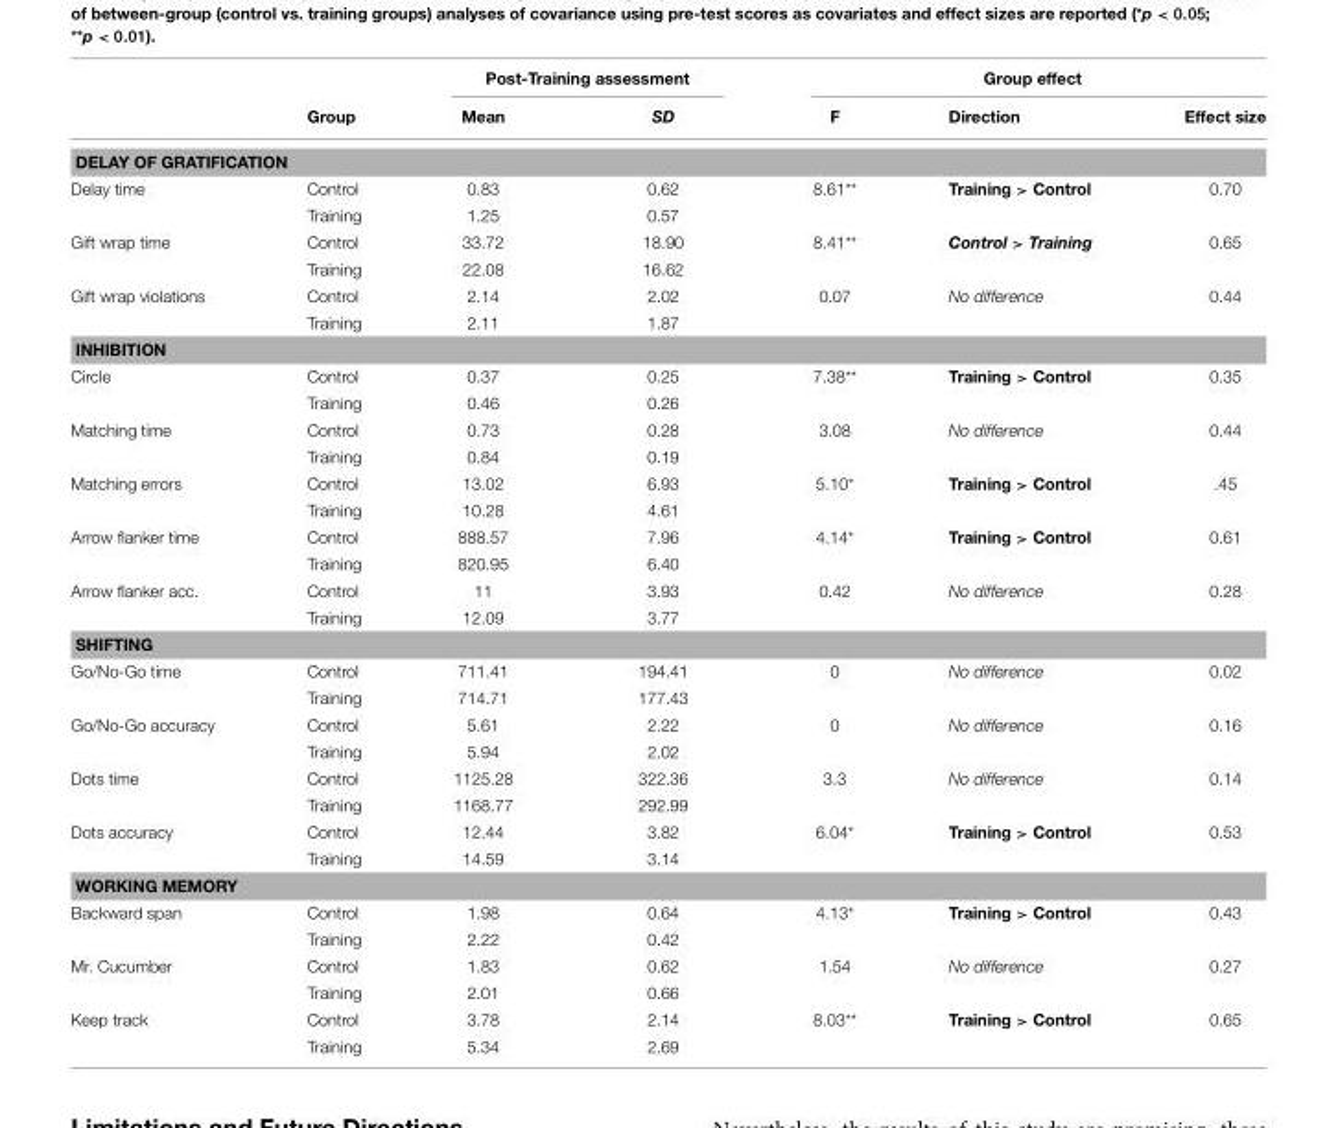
<table><thead><tr><td rowspan="2"></td><td rowspan="2">Group</td><td colspan="2">Post-Training assessment</td><td colspan="3">Group effect</td></tr><tr><td>Mean</td><td>SD</td><td>F</td><td>Direction</td><td>Effect size</td></tr></thead><tbody><tr><td colspan="7">DELAY OF GRATIFICATION</td></tr><tr><td rowspan="2">Delay time</td><td>Control</td><td>0.83</td><td>0.62</td><td>8.61**</td><td>Training &gt; Control</td><td>0.70</td></tr><tr><td>Training</td><td>1.25</td><td>0.57</td><td></td><td></td><td></td></tr><tr><td rowspan="2">Gift wrap time</td><td>Control</td><td>33.72</td><td>18.90</td><td>8.41**</td><td>Control &gt; Training</td><td>0.65</td></tr><tr><td>Training</td><td>22.08</td><td>16.62</td><td></td><td></td><td></td></tr><tr><td rowspan="2">Gift wrap violations</td><td>Control</td><td>2.14</td><td>2.02</td><td>0.07</td><td>No difference</td><td>0.44</td></tr><tr><td>Training</td><td>2.11</td><td>1.87</td><td></td><td></td><td></td></tr><tr><td colspan="7">INHIBITION</td></tr><tr><td rowspan="2">Circle</td><td>Control</td><td>0.37</td><td>0.25</td><td>7.38**</td><td>Training &gt; Control</td><td>0.35</td></tr><tr><td>Training</td><td>0.46</td><td>0.26</td><td></td><td></td><td></td></tr><tr><td rowspan="2">Matching time</td><td>Control</td><td>0.73</td><td>0.28</td><td>3.08</td><td>No difference</td><td>0.44</td></tr><tr><td>Training</td><td>0.84</td><td>0.19</td><td></td><td></td><td></td></tr><tr><td rowspan="2">Matching errors</td><td>Control</td><td>13.02</td><td>6.93</td><td>5.10*</td><td>Training &gt; Control</td><td>.45</td></tr><tr><td>Training</td><td>10.28</td><td>4.61</td><td></td><td></td><td></td></tr><tr><td rowspan="2">Arrow flanker time</td><td>Control</td><td>888.57</td><td>7.96</td><td>4.14*</td><td>Training &gt; Control</td><td>0.61</td></tr><tr><td>Training</td><td>820.95</td><td>6.40</td><td></td><td></td><td></td></tr><tr><td rowspan="2">Arrow flanker acc.</td><td>Control</td><td>11</td><td>3.93</td><td>0.42</td><td>No difference</td><td>0.28</td></tr><tr><td>Training</td><td>12.09</td><td>3.77</td><td></td><td></td><td></td></tr><tr><td colspan="7">SHIFTING</td></tr><tr><td rowspan="2">Go/No-Go time</td><td>Control</td><td>711.41</td><td>194.41</td><td>0</td><td>No difference</td><td>0.02</td></tr><tr><td>Training</td><td>714.71</td><td>177.43</td><td></td><td></td><td></td></tr><tr><td rowspan="2">Go/No-Go accuracy</td><td>Control</td><td>5.61</td><td>2.22</td><td>0</td><td>No difference</td><td>0.16</td></tr><tr><td>Training</td><td>5.94</td><td>2.02</td><td></td><td></td><td></td></tr><tr><td rowspan="2">Dots time</td><td>Control</td><td>1125.28</td><td>322.36</td><td>3.3</td><td>No difference</td><td>0.14</td></tr><tr><td>Training</td><td>1168.77</td><td>292.99</td><td></td><td></td><td></td></tr><tr><td rowspan="2">Dots accuracy</td><td>Control</td><td>12.44</td><td>3.82</td><td>6.04*</td><td>Training &gt; Control</td><td>0.53</td></tr><tr><td>Training</td><td>14.59</td><td>3.14</td><td></td><td></td><td></td></tr><tr><td colspan="7">WORKING MEMORY</td></tr><tr><td rowspan="2">Backward span</td><td>Control</td><td>1.98</td><td>0.64</td><td>4.13*</td><td>Training &gt; Control</td><td>0.43</td></tr><tr><td>Training</td><td>2.22</td><td>0.42</td><td></td><td></td><td></td></tr><tr><td rowspan="2">Mr. Cucumber</td><td>Control</td><td>1.83</td><td>0.62</td><td>1.54</td><td>No difference</td><td>0.27</td></tr><tr><td>Training</td><td>2.01</td><td>0.66</td><td></td><td></td><td></td></tr><tr><td rowspan="2">Keep track</td><td>Control</td><td>3.78</td><td>2.14</td><td>8.03**</td><td>Training &gt; Control</td><td>0.65</td></tr><tr><td>Training</td><td>5.34</td><td>2.69</td><td></td><td></td><td></td></tr></tbody></table>